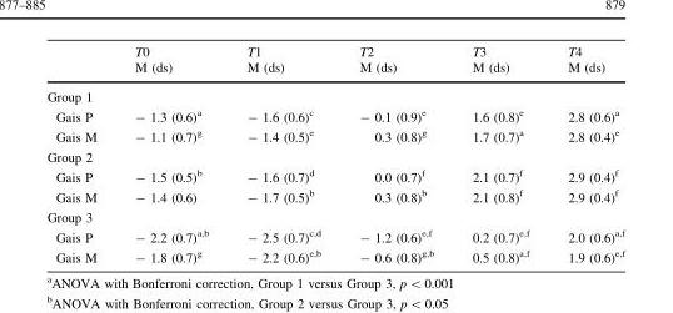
<table><thead><tr><td rowspan="2"></td><td rowspan="2">T0 M (ds)</td><td rowspan="2">T1 M (ds)</td><td rowspan="2">T2 M (ds)</td><td rowspan="2">T3 M (ds)</td><td rowspan="2">T4 M (ds)</td></tr><tr></tr></thead><tbody><tr><td colspan="6">Group 1</td></tr><tr><td>Gais P</td><td>- 1.3 (0.6)<sup>a</sup></td><td>- 1.6 (0.6)<sup>c</sup></td><td>- 0.1 (0.9)<sup>e</sup></td><td>1.6 (0.8)<sup>e</sup></td><td>2.8 (0.6)<sup>a</sup></td></tr><tr><td>Gais M</td><td>- 1.1 (0.7)<sup>g</sup></td><td>- 1.4 (0.5)<sup>e</sup></td><td>0.3 (0.8)<sup>g</sup></td><td>1.7 (0.7)<sup>a</sup></td><td>2.8 (0.4)<sup>e</sup></td></tr><tr><td colspan="6">Group 2</td></tr><tr><td>Gais P</td><td>- 1.5 (0.5)<sup>b</sup></td><td>- 1.6 (0.7)<sup>d</sup></td><td>0.0 (0.7)<sup>f</sup></td><td>2.1 (0.7)<sup>f</sup></td><td>2.9 (0.4)<sup>f</sup></td></tr><tr><td>Gais M</td><td>- 1.4 (0.6)</td><td>- 1.7 (0.5)<sup>b</sup></td><td>0.3 (0.8)<sup>b</sup></td><td>2.1 (0.8)<sup>f</sup></td><td>2.9 (0.4)<sup>f</sup></td></tr><tr><td colspan="6">Group 3</td></tr><tr><td>Gais P</td><td>- 2.2 (0.7)<sup>a,b</sup></td><td>- 2.5 (0.7)<sup>c,d</sup></td><td>- 1.2 (0.6)<sup>e,f</sup></td><td>0.2 (0.7)<sup>e,f</sup></td><td>2.0 (0.6)<sup>a,f</sup></td></tr><tr><td>Gais M</td><td>- 1.8 (0.7)<sup>g</sup></td><td>- 2.2 (0.6)<sup>e,b</sup></td><td>- 0.6 (0.8)<sup>g,b</sup></td><td>0.5 (0.8)<sup>a,f</sup></td><td>1.9 (0.6)<sup>e,f</sup></td></tr></tbody></table>